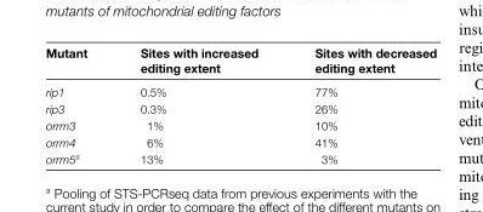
<table><thead><tr><td>Mutant</td><td>Sites with increased editing extent</td><td>Sites with decreased editing extent</td></tr></thead><tbody><tr><td>rip1</td><td>0.5%</td><td>77%</td></tr><tr><td>rip3</td><td>0.3%</td><td>26%</td></tr><tr><td>orrm3</td><td>1%</td><td>10%</td></tr><tr><td>orrm4</td><td>6%</td><td>41%</td></tr><tr><td>orrm5<sup>a</sup></td><td>13%</td><td>3%</td></tr></tbody></table>